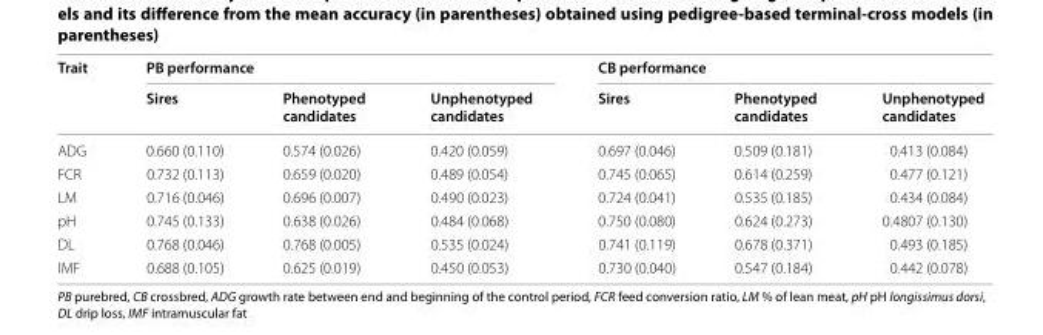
<table><thead><tr><td rowspan="2">Trait</td><td colspan="3">PB performance</td><td colspan="3">CB performance</td></tr><tr><td>Sires</td><td>Phenotyped candidates</td><td>Unphenotyped candidates</td><td>Sires</td><td>Phenotyped candidates</td><td>Unphenotyped candidates</td></tr></thead><tbody><tr><td>ADG</td><td>0.660 (0.110)</td><td>0.574 (0.026)</td><td>0.420 (0.059)</td><td>0.697 (0.046)</td><td>0.509 (0.181)</td><td>0.413 (0.084)</td></tr><tr><td>FCR</td><td>0.732 (0.113)</td><td>0.659 (0.020)</td><td>0.489 (0.054)</td><td>0.745 (0.065)</td><td>0.614 (0.259)</td><td>0.477 (0.121)</td></tr><tr><td>LM</td><td>0.716 (0.046)</td><td>0.696 (0.007)</td><td>0.490 (0.023)</td><td>0.724 (0.041)</td><td>0.535 (0.185)</td><td>0.434 (0.084)</td></tr><tr><td>pH</td><td>0.745 (0.133)</td><td>0.638 (0.026)</td><td>0.484 (0.068)</td><td>0.750 (0.080)</td><td>0.624 (0.273)</td><td>0.4807 (0.130)</td></tr><tr><td>DL</td><td>0.768 (0.046)</td><td>0.768 (0.005)</td><td>0.535 (0.024)</td><td>0.741 (0.119)</td><td>0.678 (0.371)</td><td>0.493 (0.185)</td></tr><tr><td>IMF</td><td>0.688 (0.105)</td><td>0.625 (0.019)</td><td>0.450 (0.053)</td><td>0.730 (0.040)</td><td>0.547 (0.184)</td><td>0.442 (0.078)</td></tr></tbody></table>